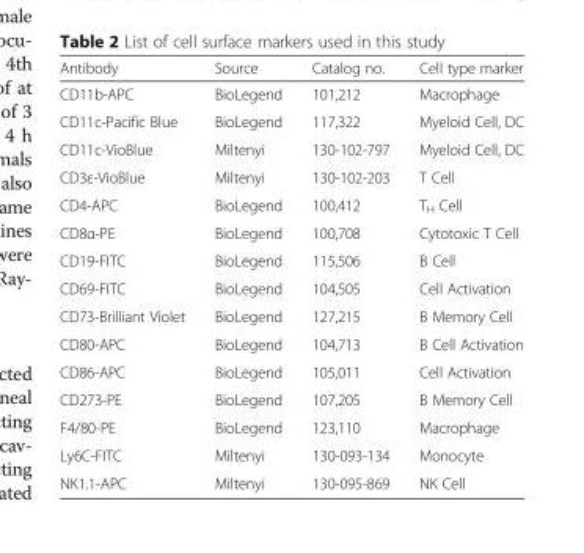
<table><thead><tr><td>Antibody</td><td>Source</td><td>Catalog no.</td><td>Cell type marker</td></tr></thead><tbody><tr><td>CD11b-APC</td><td>BioLegend</td><td>101,212</td><td>Macrophage</td></tr><tr><td>CD11c-Pacific Blue</td><td>BioLegend</td><td>117,322</td><td>Myeloid Cell, DC</td></tr><tr><td>CD11c-VioBlue</td><td>Miltenyi</td><td>130-102-797</td><td>Myeloid Cell, DC</td></tr><tr><td>CD3ε-VioBlue</td><td>Miltenyi</td><td>130-102-203</td><td>T Cell</td></tr><tr><td>CD4-APC</td><td>BioLegend</td><td>100,412</td><td>T<sub>H</sub> Cell</td></tr><tr><td>CD8α-PE</td><td>BioLegend</td><td>100,708</td><td>Cytotoxic T Cell</td></tr><tr><td>CD19-FITC</td><td>BioLegend</td><td>115,506</td><td>B Cell</td></tr><tr><td>CD69-FITC</td><td>BioLegend</td><td>104,505</td><td>Cell Activation</td></tr><tr><td>CD73-Brilliant Violet</td><td>BioLegend</td><td>127,215</td><td>B Memory Cell</td></tr><tr><td>CD80-APC</td><td>BioLegend</td><td>104,713</td><td>B Cell Activation</td></tr><tr><td>CD86-APC</td><td>BioLegend</td><td>105,011</td><td>Cell Activation</td></tr><tr><td>CD273-PE</td><td>BioLegend</td><td>107,205</td><td>B Memory Cell</td></tr><tr><td>F4/80-PE</td><td>BioLegend</td><td>123,110</td><td>Macrophage</td></tr><tr><td>Ly6C-FITC</td><td>Miltenyi</td><td>130-093-134</td><td>Monocyte</td></tr><tr><td>NK1.1-APC</td><td>Miltenyi</td><td>130-095-869</td><td>NK Cell</td></tr></tbody></table>